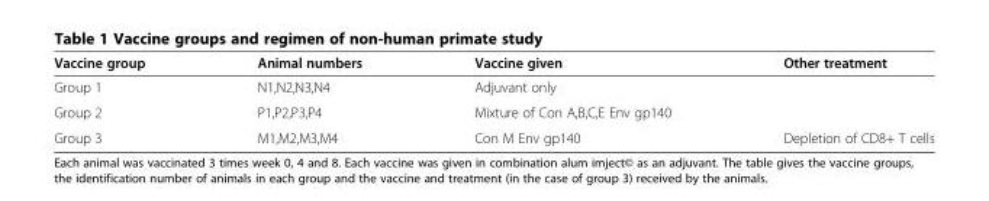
<table><thead><tr><td>Vaccine group</td><td>Animal numbers</td><td>Vaccine given</td><td>Other treatment</td></tr></thead><tbody><tr><td>Group 1</td><td>N1,N2,N3,N4</td><td>Adjuvant only</td><td></td></tr><tr><td>Group 2</td><td>P1,P2,P3,P4</td><td>Mixture of Con A,B,C,E Env gp140</td><td></td></tr><tr><td>Group 3</td><td>M1,M2,M3,M4</td><td>Con M Env gp140</td><td>Depletion of CD8+ T cells</td></tr></tbody></table>